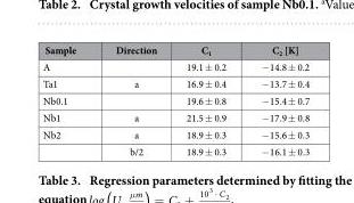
<table><thead><tr><td>Sample</td><td>Direction</td><td>C<sub>1</sub></td><td>C<sub>2</sub> [K]</td></tr></thead><tbody><tr><td>A</td><td></td><td>19.1 ± 0.2</td><td>− 14.8 ± 0.2</td></tr><tr><td>Ta1</td><td>a</td><td>16.9 ± 0.4</td><td>− 13.7 ± 0.4</td></tr><tr><td>Nb0.1</td><td></td><td>19.6 ± 0.8</td><td>− 15.4 ± 0.7</td></tr><tr><td>Nb1</td><td>a</td><td>21.5 ± 0.9</td><td>− 17.9 ± 0.8</td></tr><tr><td rowspan="2">Nb2</td><td>a</td><td>18.9 ± 0.3</td><td>− 15.6 ± 0.3</td></tr><tr><td>b/2</td><td>18.9 ± 0.3</td><td>− 16.1 ± 0.3</td></tr></tbody></table>